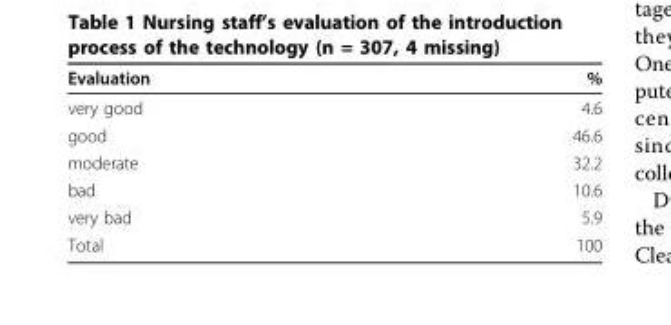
<table><thead><tr><td>Evaluation</td><td>%</td></tr></thead><tbody><tr><td>very good</td><td>4.6</td></tr><tr><td>good</td><td>46.6</td></tr><tr><td>moderate</td><td>32.2</td></tr><tr><td>bad</td><td>10.6</td></tr><tr><td>very bad</td><td>5.9</td></tr><tr><td>Total</td><td>100</td></tr></tbody></table>